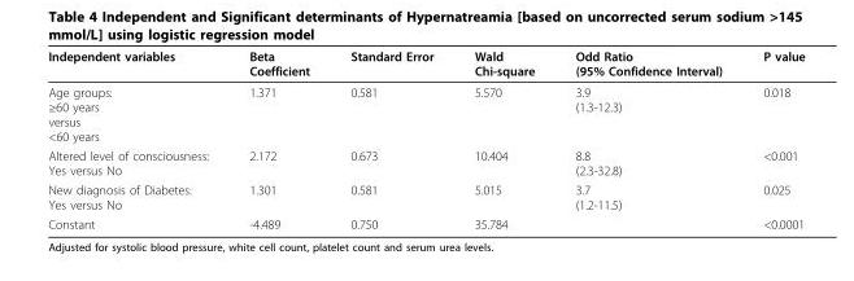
<table><thead><tr><td>Independent variables</td><td>Beta Coefficient</td><td>Standard Error</td><td>Wald Chi-square</td><td>Odd Ratio (95% Confidence Interval)</td><td>P value</td></tr></thead><tbody><tr><td>Age groups: ≥60 years versus &lt;60 years</td><td>1.371</td><td>0.581</td><td>5.570</td><td>3.9 (1.3-12.3)</td><td>0.018</td></tr><tr><td>Altered level of consciousness: Yes versus No</td><td>2.172</td><td>0.673</td><td>10.404</td><td>8.8 (2.3-32.8)</td><td>&lt;0.001</td></tr><tr><td>New diagnosis of Diabetes: Yes versus No</td><td>1.301</td><td>0.581</td><td>5.015</td><td>3.7 (1.2-11.5)</td><td>0.025</td></tr><tr><td>Constant</td><td>-4.489</td><td>0.750</td><td>35.784</td><td></td><td>&lt;0.0001</td></tr></tbody></table>